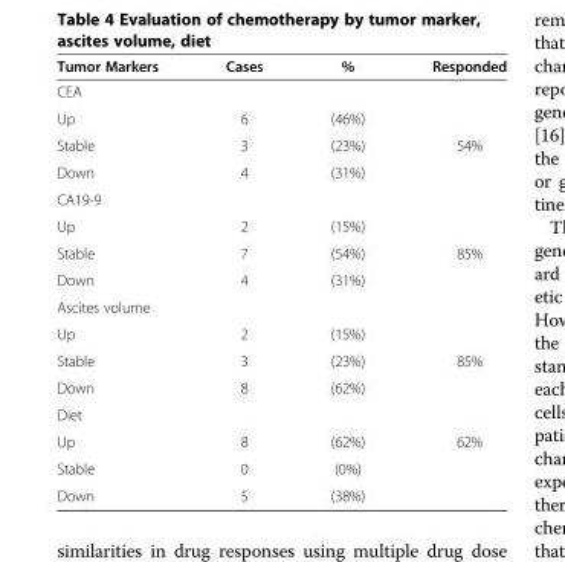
<table><thead><tr><td>Tumor Markers</td><td>Cases</td><td>%</td><td>Responded</td></tr></thead><tbody><tr><td colspan="4">CEA</td></tr><tr><td>Up</td><td>6</td><td>(46%)</td><td></td></tr><tr><td>Stable</td><td>3</td><td>(23%)</td><td rowspan="2">54%</td></tr><tr><td>Down</td><td>4</td><td>(31%)</td></tr><tr><td colspan="4">CA19-9</td></tr><tr><td>Up</td><td>2</td><td>(15%)</td><td></td></tr><tr><td>Stable</td><td>7</td><td>(54%)</td><td rowspan="2">85%</td></tr><tr><td>Down</td><td>4</td><td>(31%)</td></tr><tr><td colspan="4">Ascites volume</td></tr><tr><td>Up</td><td>2</td><td>(15%)</td><td></td></tr><tr><td>Stable</td><td>3</td><td>(23%)</td><td rowspan="2">85%</td></tr><tr><td>Down</td><td>8</td><td>(62%)</td></tr><tr><td colspan="4">Diet</td></tr><tr><td>Up</td><td>8</td><td>(62%)</td><td rowspan="2">62%</td></tr><tr><td>Stable</td><td>0</td><td>(0%)</td></tr><tr><td>Down</td><td>5</td><td>(38%)</td><td></td></tr></tbody></table>